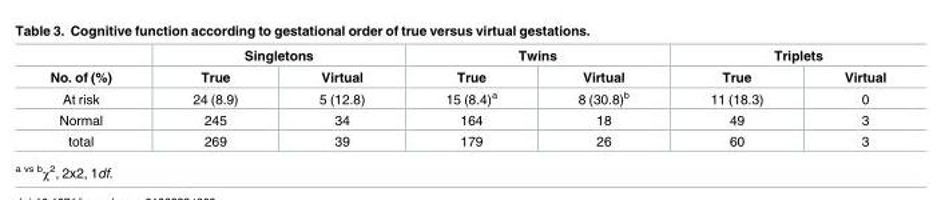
<table><thead><tr><td rowspan="2">No. of (%)</td><td colspan="2">Singletons</td><td colspan="2">Twins</td><td colspan="2">Triplets</td></tr><tr><td>True</td><td>Virtual</td><td>True</td><td>Virtual</td><td>True</td><td>Virtual</td></tr></thead><tbody><tr><td>At risk</td><td>24 (8.9)</td><td>5 (12.8)</td><td>15 (8.4)<sup>a</sup></td><td>8 (30.8)<sup>b</sup></td><td>11 (18.3)</td><td>0</td></tr><tr><td>Normal</td><td>245</td><td>34</td><td>164</td><td>18</td><td>49</td><td>3</td></tr><tr><td>total</td><td>269</td><td>39</td><td>179</td><td>26</td><td>60</td><td>3</td></tr></tbody></table>